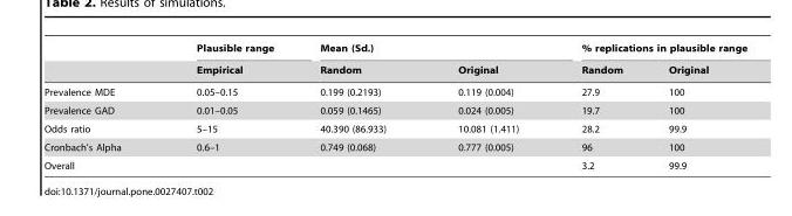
<table><thead><tr><td rowspan="2"></td><td rowspan="2">Plausible range Empirical</td><td colspan="2">Mean (Sd.)</td><td colspan="2">% replications in plausible range</td></tr><tr><td>Random</td><td>Original</td><td>Random</td><td>Original</td></tr></thead><tbody><tr><td>Prevalence MDE</td><td>0.05–0.15</td><td>0.199 (0.2193)</td><td>0.119 (0.004)</td><td>27.9</td><td>100</td></tr><tr><td>Prevalence GAD</td><td>0.01–0.05</td><td>0.059 (0.1465)</td><td>0.024 (0.005)</td><td>19.7</td><td>100</td></tr><tr><td>Odds ratio</td><td>5–15</td><td>40.390 (86.933)</td><td>10.081 (1.411)</td><td>28.2</td><td>99.9</td></tr><tr><td>Cronbach’s Alpha</td><td>0.6–1</td><td>0.749 (0.068)</td><td>0.777 (0.005)</td><td>96</td><td>100</td></tr><tr><td>Overall</td><td></td><td></td><td></td><td>3.2</td><td>99.9</td></tr></tbody></table>